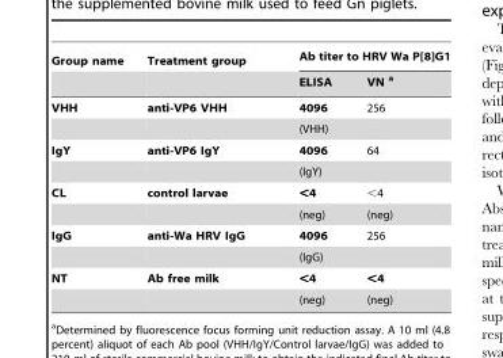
<table><thead><tr><td rowspan="2">Group name</td><td rowspan="2">Treatment group</td><td colspan="2">Ab titer to HRV Wa P[8]G1</td></tr><tr><td>ELISA</td><td>VN a</td></tr></thead><tbody><tr><td rowspan="2">VHH</td><td>anti-VP6 VHH</td><td>4096</td><td>256</td></tr><tr><td></td><td>(VHH)</td><td></td></tr><tr><td rowspan="2">IgY</td><td>anti-VP6 IgY</td><td>4096</td><td>64</td></tr><tr><td></td><td>(IgY)</td><td></td></tr><tr><td rowspan="2">CL</td><td>control larvae</td><td>&lt;4</td><td>&lt;4</td></tr><tr><td></td><td>(neg)</td><td>(neg)</td></tr><tr><td rowspan="2">IgG</td><td>anti-Wa HRV IgG</td><td>4096</td><td>256</td></tr><tr><td></td><td>(IgG)</td><td></td></tr><tr><td rowspan="2">NT</td><td>Ab free milk</td><td>&lt;4</td><td>&lt;4</td></tr><tr><td></td><td>(neg)</td><td>(neg)</td></tr></tbody></table>